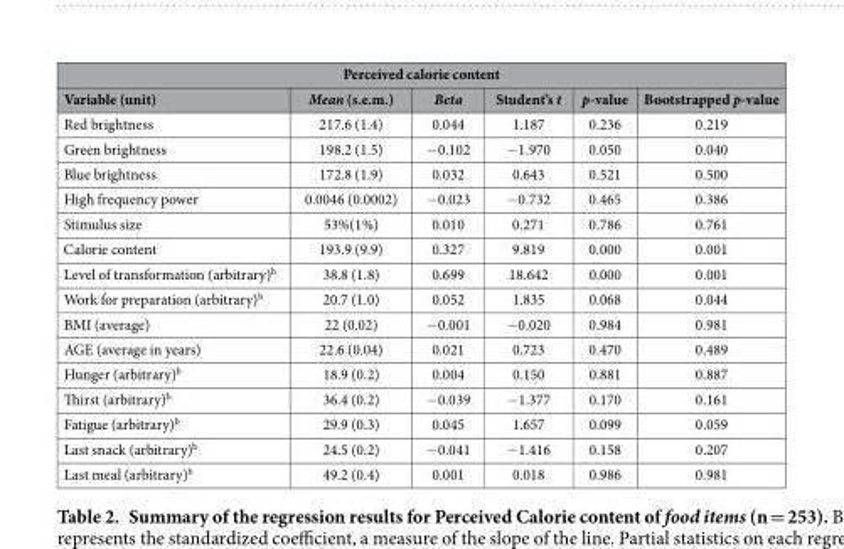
<table><thead><tr><td colspan="6">Perceived calorie content</td></tr><tr><td>Variable (unit)</td><td>Mean (s.e.m.)</td><td>Beta</td><td>Student’s t</td><td>p-value</td><td>Bootstrapped p-value</td></tr></thead><tbody><tr><td>Red brightness</td><td>217.6 (1.4)</td><td>0.044</td><td>1.187</td><td>0.236</td><td>0.219</td></tr><tr><td>Green brightness</td><td>198.2 (1.5)</td><td>− 0.102</td><td>− 1.970</td><td>0.050</td><td>0.040</td></tr><tr><td>Blue brightness</td><td>172.8 (1.9)</td><td>0.032</td><td>0.643</td><td>0.521</td><td>0.500</td></tr><tr><td>High frequency power</td><td>0.0046 (0.0002)</td><td>− 0.023</td><td>− 0.732</td><td>0.465</td><td>0.386</td></tr><tr><td>Stimulus size</td><td>53%(1%)</td><td>0.010</td><td>0.271</td><td>0.786</td><td>0.761</td></tr><tr><td>Calorie content</td><td>193.9 (9.9)</td><td>0.327</td><td>9.819</td><td>0.000</td><td>0.001</td></tr><tr><td>Level of transformation (arbitrary)<sup>b</sup></td><td>38.8 (1.8)</td><td>0.699</td><td>18.642</td><td>0.000</td><td>0.001</td></tr><tr><td>Work for preparation (arbitrary)<sup>b</sup></td><td>20.7 (1.0)</td><td>0.052</td><td>1.835</td><td>0.068</td><td>0.044</td></tr><tr><td>BMI (average)</td><td>22 (0.02)</td><td>− 0.001</td><td>− 0.020</td><td>0.984</td><td>0.981</td></tr><tr><td>AGE (average in years)</td><td>22.6 (0.04)</td><td>0.021</td><td>0.723</td><td>0.470</td><td>0.489</td></tr><tr><td>Hunger (arbitrary)<sup>b</sup></td><td>18.9 (0.2)</td><td>0.004</td><td>0.150</td><td>0.881</td><td>0.887</td></tr><tr><td>Thirst (arbitrary)<sup>b</sup></td><td>36.4 (0.2)</td><td>− 0.039</td><td>− 1.377</td><td>0.170</td><td>0.161</td></tr><tr><td>Fatigue (arbitrary)<sup>b</sup></td><td>29.9 (0.3)</td><td>0.045</td><td>1.657</td><td>0.099</td><td>0.059</td></tr><tr><td>Last snack (arbitrary)<sup>b</sup></td><td>24.5 (0.2)</td><td>− 0.041</td><td>− 1.416</td><td>0.158</td><td>0.207</td></tr><tr><td>Last meal (arbitrary)<sup>b</sup></td><td>49.2 (0.4)</td><td>0.001</td><td>0.018</td><td>0.986</td><td>0.981</td></tr></tbody></table>